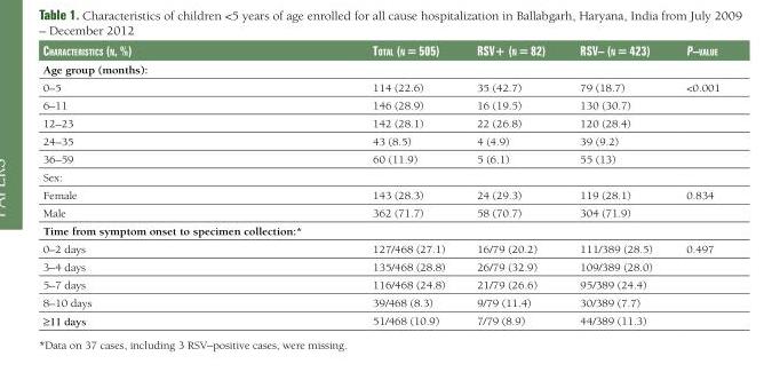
<table><thead><tr><td>CharaCteristiCs (n, %)</td><td>total (n = 505)</td><td>rsV+ (n = 82)</td><td>rsV– (n = 423)</td><td>P–Value</td></tr></thead><tbody><tr><td colspan="5">Age group (months):</td></tr><tr><td>0–5</td><td>114 (22.6)</td><td>35 (42.7)</td><td>79 (18.7)</td><td>&lt;0.001</td></tr><tr><td>6–11</td><td>146 (28.9)</td><td>16 (19.5)</td><td>130 (30.7)</td><td></td></tr><tr><td>12–23</td><td>142 (28.1)</td><td>22 (26.8)</td><td>120 (28.4)</td><td></td></tr><tr><td>24–35</td><td>43 (8.5)</td><td>4 (4.9)</td><td>39 (9.2)</td><td></td></tr><tr><td>36–59</td><td>60 (11.9)</td><td>5 (6.1)</td><td>55 (13)</td><td></td></tr><tr><td colspan="5">Sex:</td></tr><tr><td>Female</td><td>143 (28.3)</td><td>24 (29.3)</td><td>119 (28.1)</td><td>0.834</td></tr><tr><td>Male</td><td>362 (71.7)</td><td>58 (70.7)</td><td>304 (71.9)</td><td></td></tr><tr><td colspan="5">Time from symptom onset to specimen collection:*</td></tr><tr><td>0–2 days</td><td>127/468 (27.1)</td><td>16/79 (20.2)</td><td>111/389 (28.5)</td><td>0.497</td></tr><tr><td>3–4 days</td><td>135/468 (28.8)</td><td>26/79 (32.9)</td><td>109/389 (28.0)</td><td></td></tr><tr><td>5–7 days</td><td>116/468 (24.8)</td><td>21/79 (26.6)</td><td>95/389 (24.4)</td><td></td></tr><tr><td>8–10 days</td><td>39/468 (8.3)</td><td>9/79 (11.4)</td><td>30/389 (7.7)</td><td></td></tr><tr><td>≥11 days</td><td>51/468 (10.9)</td><td>7/79 (8.9)</td><td>44/389 (11.3)</td><td></td></tr></tbody></table>